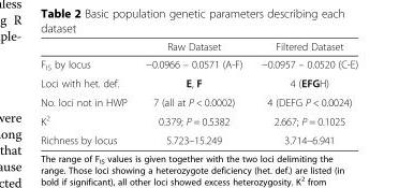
<table><thead><tr><td></td><td>Raw Dataset</td><td>Filtered Dataset</td></tr></thead><tbody><tr><td>F<sub>IS</sub> by locus</td><td>−0.0966 – 0.0571 (A-F)</td><td>−0.0957 – 0.0520 (C-E)</td></tr><tr><td>Loci with het. def.</td><td>E, F</td><td>4 (EFGH)</td></tr><tr><td>No. loci not in HWP</td><td>7 (all at P &lt; 0.0002)</td><td>4 (DEFG P &lt; 0.0024)</td></tr><tr><td>K<sup>2</sup></td><td>0.379; P = 0.5382</td><td>2.667; P = 0.1025</td></tr><tr><td>Richness by locus</td><td>5.723–15.249</td><td>3.714–6.941</td></tr></tbody></table>